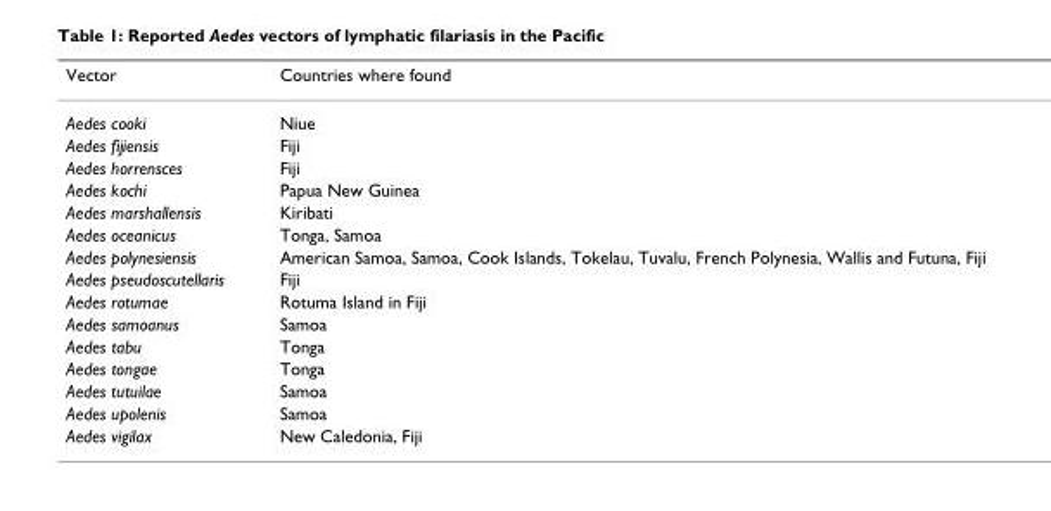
<table><thead><tr><td>Vector</td><td>Countries where found</td></tr></thead><tbody><tr><td>Aedes cooki</td><td>Niue</td></tr><tr><td>Aedes fijiensis</td><td>Fiji</td></tr><tr><td>Aedes horrensces</td><td>Fiji</td></tr><tr><td>Aedes kochi</td><td>Papua New Guinea</td></tr><tr><td>Aedes marshallensis</td><td>Kiribati</td></tr><tr><td>Aedes oceanicus</td><td>Tonga, Samoa</td></tr><tr><td>Aedes polynesiensis</td><td>American Samoa, Samoa, Cook Islands, Tokelau, Tuvalu, French Polynesia, Wallis and Futuna, Fiji</td></tr><tr><td>Aedes pseudoscutellaris</td><td>Fiji</td></tr><tr><td>Aedes rotumae</td><td>Rotuma Island in Fiji</td></tr><tr><td>Aedes samoanus</td><td>Samoa</td></tr><tr><td>Aedes tabu</td><td>Tonga</td></tr><tr><td>Aedes tongae</td><td>Tonga</td></tr><tr><td>Aedes tutuilae</td><td>Samoa</td></tr><tr><td>Aedes upolenis</td><td>Samoa</td></tr><tr><td>Aedes vigilax</td><td>New Caledonia, Fiji</td></tr></tbody></table>